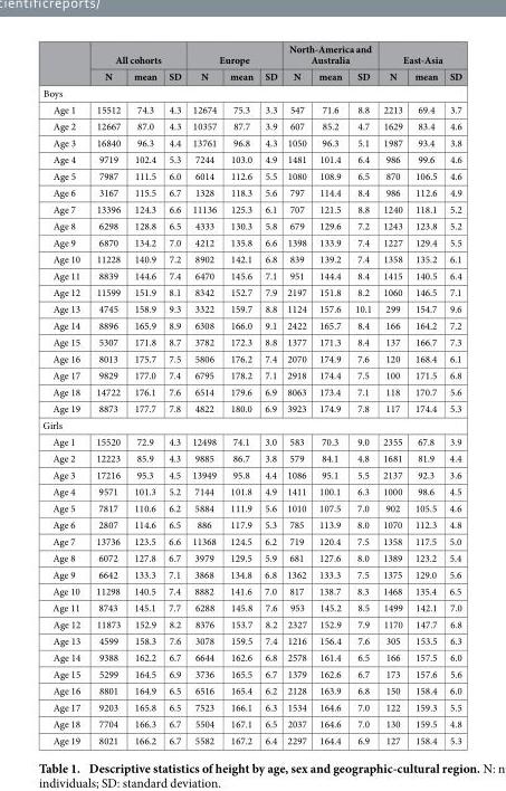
<table><thead><tr><td rowspan="2"></td><td colspan="3">All cohorts</td><td colspan="3">Europe</td><td colspan="3">North-America and Australia</td><td colspan="3">East-Asia</td></tr><tr><td>N</td><td>mean</td><td>SD</td><td>N</td><td>mean</td><td>SD</td><td>N</td><td>mean</td><td>SD</td><td>N</td><td>mean</td><td>SD</td></tr></thead><tbody><tr><td colspan="13">Boys</td></tr><tr><td>Age 1</td><td>15512</td><td>74.3</td><td>4.3</td><td>12674</td><td>75.3</td><td>3.3</td><td>547</td><td>71.6</td><td>8.8</td><td>2213</td><td>69.4</td><td>3.7</td></tr><tr><td>Age 2</td><td>12667</td><td>87.0</td><td>4.3</td><td>10357</td><td>87.7</td><td>3.9</td><td>607</td><td>85.2</td><td>4.7</td><td>1629</td><td>83.4</td><td>4.6</td></tr><tr><td>Age 3</td><td>16840</td><td>96.3</td><td>4.4</td><td>13761</td><td>96.8</td><td>4.3</td><td>1050</td><td>96.3</td><td>5.1</td><td>1987</td><td>93.4</td><td>3.8</td></tr><tr><td>Age 4</td><td>9719</td><td>102.4</td><td>5.3</td><td>7244</td><td>103.0</td><td>4.9</td><td>1481</td><td>101.4</td><td>6.4</td><td>986</td><td>99.6</td><td>4.6</td></tr><tr><td>Age 5</td><td>7987</td><td>111.5</td><td>6.0</td><td>6014</td><td>112.6</td><td>5.5</td><td>1080</td><td>108.9</td><td>6.5</td><td>870</td><td>106.5</td><td>4.6</td></tr><tr><td>Age 6</td><td>3167</td><td>115.5</td><td>6.7</td><td>1328</td><td>118.3</td><td>5.6</td><td>797</td><td>114.4</td><td>8.4</td><td>986</td><td>112.6</td><td>4.9</td></tr><tr><td>Age 7</td><td>13396</td><td>124.3</td><td>6.6</td><td>11136</td><td>125.3</td><td>6.1</td><td>707</td><td>121.5</td><td>8.8</td><td>1240</td><td>118.1</td><td>5.2</td></tr><tr><td>Age 8</td><td>6298</td><td>128.8</td><td>6.5</td><td>4333</td><td>130.3</td><td>5.8</td><td>679</td><td>129.6</td><td>7.2</td><td>1243</td><td>123.8</td><td>5.2</td></tr><tr><td>Age 9</td><td>6870</td><td>134.2</td><td>7.0</td><td>4212</td><td>135.8</td><td>6.6</td><td>1398</td><td>133.9</td><td>7.4</td><td>1227</td><td>129.4</td><td>5.5</td></tr><tr><td>Age 10</td><td>11228</td><td>140.9</td><td>7.2</td><td>8902</td><td>142.1</td><td>6.8</td><td>839</td><td>139.2</td><td>7.4</td><td>1358</td><td>135.2</td><td>6.1</td></tr><tr><td>Age 11</td><td>8839</td><td>144.6</td><td>7.4</td><td>6470</td><td>145.6</td><td>7.1</td><td>951</td><td>144.4</td><td>8.4</td><td>1415</td><td>140.5</td><td>6.4</td></tr><tr><td>Age 12</td><td>11599</td><td>151.9</td><td>8.1</td><td>8342</td><td>152.7</td><td>7.9</td><td>2197</td><td>151.8</td><td>8.2</td><td>1060</td><td>146.5</td><td>7.1</td></tr><tr><td>Age 13</td><td>4745</td><td>158.9</td><td>9.3</td><td>3322</td><td>159.7</td><td>8.8</td><td>1124</td><td>157.6</td><td>10.1</td><td>299</td><td>154.7</td><td>9.6</td></tr><tr><td>Age 14</td><td>8896</td><td>165.9</td><td>8.9</td><td>6308</td><td>166.0</td><td>9.1</td><td>2422</td><td>165.7</td><td>8.4</td><td>166</td><td>164.2</td><td>7.2</td></tr><tr><td>Age 15</td><td>5307</td><td>171.8</td><td>8.7</td><td>3782</td><td>172.3</td><td>8.8</td><td>1377</td><td>171.3</td><td>8.4</td><td>137</td><td>166.7</td><td>7.3</td></tr><tr><td>Age 16</td><td>8013</td><td>175.7</td><td>7.5</td><td>5806</td><td>176.2</td><td>7.4</td><td>2070</td><td>174.9</td><td>7.6</td><td>120</td><td>168.4</td><td>6.1</td></tr><tr><td>Age 17</td><td>9829</td><td>177.0</td><td>7.4</td><td>6795</td><td>178.2</td><td>7.1</td><td>2918</td><td>174.4</td><td>7.5</td><td>100</td><td>171.5</td><td>6.8</td></tr><tr><td>Age 18</td><td>14722</td><td>176.1</td><td>7.6</td><td>6514</td><td>179.6</td><td>6.9</td><td>8063</td><td>173.4</td><td>7.1</td><td>118</td><td>170.7</td><td>5.6</td></tr><tr><td>Age 19</td><td>8873</td><td>177.7</td><td>7.8</td><td>4822</td><td>180.0</td><td>6.9</td><td>3923</td><td>174.9</td><td>7.8</td><td>117</td><td>174.4</td><td>5.3</td></tr><tr><td colspan="13">Girls</td></tr><tr><td>Age 1</td><td>15520</td><td>72.9</td><td>4.3</td><td>12498</td><td>74.1</td><td>3.0</td><td>583</td><td>70.3</td><td>9.0</td><td>2355</td><td>67.8</td><td>3.9</td></tr><tr><td>Age 2</td><td>12223</td><td>85.9</td><td>4.3</td><td>9885</td><td>86.7</td><td>3.8</td><td>579</td><td>84.1</td><td>4.8</td><td>1681</td><td>81.9</td><td>4.4</td></tr><tr><td>Age 3</td><td>17216</td><td>95.3</td><td>4.5</td><td>13949</td><td>95.8</td><td>4.4</td><td>1086</td><td>95.1</td><td>5.5</td><td>2137</td><td>92.3</td><td>3.6</td></tr><tr><td>Age 4</td><td>9571</td><td>101.3</td><td>5.2</td><td>7144</td><td>101.8</td><td>4.9</td><td>1411</td><td>100.1</td><td>6.3</td><td>1000</td><td>98.6</td><td>4.5</td></tr><tr><td>Age 5</td><td>7817</td><td>110.6</td><td>6.2</td><td>5884</td><td>111.9</td><td>5.6</td><td>1010</td><td>107.5</td><td>7.0</td><td>902</td><td>105.5</td><td>4.6</td></tr><tr><td>Age 6</td><td>2807</td><td>114.6</td><td>6.5</td><td>886</td><td>117.9</td><td>5.3</td><td>785</td><td>113.9</td><td>8.0</td><td>1070</td><td>112.3</td><td>4.8</td></tr><tr><td>Age 7</td><td>13736</td><td>123.5</td><td>6.6</td><td>11368</td><td>124.5</td><td>6.2</td><td>719</td><td>120.4</td><td>7.5</td><td>1358</td><td>117.5</td><td>5.0</td></tr><tr><td>Age 8</td><td>6072</td><td>127.8</td><td>6.7</td><td>3979</td><td>129.5</td><td>5.9</td><td>681</td><td>127.6</td><td>8.0</td><td>1389</td><td>123.2</td><td>5.4</td></tr><tr><td>Age 9</td><td>6642</td><td>133.3</td><td>7.1</td><td>3868</td><td>134.8</td><td>6.8</td><td>1362</td><td>133.3</td><td>7.5</td><td>1375</td><td>129.0</td><td>5.6</td></tr><tr><td>Age 10</td><td>11298</td><td>140.5</td><td>7.4</td><td>8882</td><td>141.6</td><td>7.0</td><td>817</td><td>138.7</td><td>8.3</td><td>1468</td><td>135.4</td><td>6.5</td></tr><tr><td>Age 11</td><td>8743</td><td>145.1</td><td>7.7</td><td>6288</td><td>145.8</td><td>7.6</td><td>953</td><td>145.2</td><td>8.5</td><td>1499</td><td>142.1</td><td>7.0</td></tr><tr><td>Age 12</td><td>11873</td><td>152.9</td><td>8.2</td><td>8376</td><td>153.7</td><td>8.2</td><td>2327</td><td>152.9</td><td>7.9</td><td>1170</td><td>147.7</td><td>6.8</td></tr><tr><td>Age 13</td><td>4599</td><td>158.3</td><td>7.6</td><td>3078</td><td>159.5</td><td>7.4</td><td>1216</td><td>156.4</td><td>7.6</td><td>305</td><td>153.5</td><td>6.3</td></tr><tr><td>Age 14</td><td>9388</td><td>162.2</td><td>6.7</td><td>6644</td><td>162.6</td><td>6.8</td><td>2578</td><td>161.4</td><td>6.5</td><td>166</td><td>157.5</td><td>6.0</td></tr><tr><td>Age 15</td><td>5299</td><td>164.5</td><td>6.9</td><td>3736</td><td>165.5</td><td>6.7</td><td>1379</td><td>162.6</td><td>6.7</td><td>173</td><td>157.6</td><td>5.6</td></tr><tr><td>Age 16</td><td>8801</td><td>164.9</td><td>6.5</td><td>6516</td><td>165.4</td><td>6.2</td><td>2128</td><td>163.9</td><td>6.8</td><td>150</td><td>158.4</td><td>6.0</td></tr><tr><td>Age 17</td><td>9203</td><td>165.8</td><td>6.5</td><td>7523</td><td>166.1</td><td>6.3</td><td>1534</td><td>164.6</td><td>7.0</td><td>122</td><td>159.3</td><td>5.5</td></tr><tr><td>Age 18</td><td>7704</td><td>166.3</td><td>6.7</td><td>5504</td><td>167.1</td><td>6.5</td><td>2037</td><td>164.6</td><td>7.0</td><td>130</td><td>159.5</td><td>4.8</td></tr><tr><td>Age 19</td><td>8021</td><td>166.2</td><td>6.7</td><td>5582</td><td>167.2</td><td>6.4</td><td>2297</td><td>164.4</td><td>6.9</td><td>127</td><td>158.4</td><td>5.3</td></tr></tbody></table>